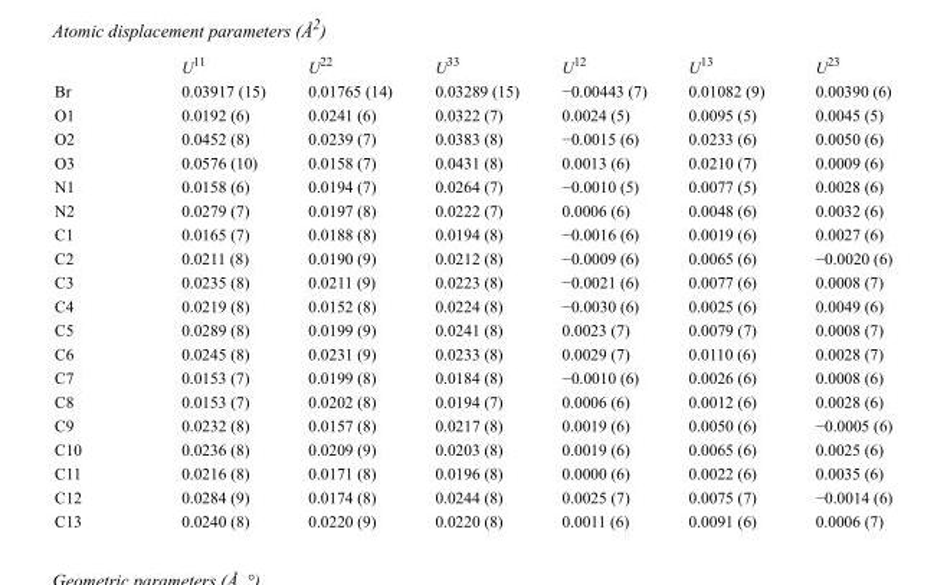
<table><thead><tr><td></td><td>U<sup>11</sup></td><td>U<sup>22</sup></td><td>U<sup>33</sup></td><td>U<sup>12</sup></td><td>U<sup>13</sup></td><td>U<sup>23</sup></td></tr></thead><tbody><tr><td>Br</td><td>0.03917 (15)</td><td>0.01765 (14)</td><td>0.03289 (15)</td><td>−0.00443 (7)</td><td>0.01082 (9)</td><td>0.00390 (6)</td></tr><tr><td>O1</td><td>0.0192 (6)</td><td>0.0241 (6)</td><td>0.0322 (7)</td><td>0.0024 (5)</td><td>0.0095 (5)</td><td>0.0045 (5)</td></tr><tr><td>O2</td><td>0.0452 (8)</td><td>0.0239 (7)</td><td>0.0383 (8)</td><td>−0.0015 (6)</td><td>0.0233 (6)</td><td>0.0050 (6)</td></tr><tr><td>O3</td><td>0.0576 (10)</td><td>0.0158 (7)</td><td>0.0431 (8)</td><td>0.0013 (6)</td><td>0.0210 (7)</td><td>0.0009 (6)</td></tr><tr><td>N1</td><td>0.0158 (6)</td><td>0.0194 (7)</td><td>0.0264 (7)</td><td>−0.0010 (5)</td><td>0.0077 (5)</td><td>0.0028 (6)</td></tr><tr><td>N2</td><td>0.0279 (7)</td><td>0.0197 (8)</td><td>0.0222 (7)</td><td>0.0006 (6)</td><td>0.0048 (6)</td><td>0.0032 (6)</td></tr><tr><td>C1</td><td>0.0165 (7)</td><td>0.0188 (8)</td><td>0.0194 (8)</td><td>−0.0016 (6)</td><td>0.0019 (6)</td><td>0.0027 (6)</td></tr><tr><td>C2</td><td>0.0211 (8)</td><td>0.0190 (9)</td><td>0.0212 (8)</td><td>−0.0009 (6)</td><td>0.0065 (6)</td><td>−0.0020 (6)</td></tr><tr><td>C3</td><td>0.0235 (8)</td><td>0.0211 (9)</td><td>0.0223 (8)</td><td>−0.0021 (6)</td><td>0.0077 (6)</td><td>0.0008 (7)</td></tr><tr><td>C4</td><td>0.0219 (8)</td><td>0.0152 (8)</td><td>0.0224 (8)</td><td>−0.0030 (6)</td><td>0.0025 (6)</td><td>0.0049 (6)</td></tr><tr><td>C5</td><td>0.0289 (8)</td><td>0.0199 (9)</td><td>0.0241 (8)</td><td>0.0023 (7)</td><td>0.0079 (7)</td><td>0.0008 (7)</td></tr><tr><td>C6</td><td>0.0245 (8)</td><td>0.0231 (9)</td><td>0.0233 (8)</td><td>0.0029 (7)</td><td>0.0110 (6)</td><td>0.0028 (7)</td></tr><tr><td>C7</td><td>0.0153 (7)</td><td>0.0199 (8)</td><td>0.0184 (8)</td><td>−0.0010 (6)</td><td>0.0026 (6)</td><td>0.0008 (6)</td></tr><tr><td>C8</td><td>0.0153 (7)</td><td>0.0202 (8)</td><td>0.0194 (7)</td><td>0.0006 (6)</td><td>0.0012 (6)</td><td>0.0028 (6)</td></tr><tr><td>C9</td><td>0.0232 (8)</td><td>0.0157 (8)</td><td>0.0217 (8)</td><td>0.0019 (6)</td><td>0.0050 (6)</td><td>−0.0005 (6)</td></tr><tr><td>C10</td><td>0.0236 (8)</td><td>0.0209 (9)</td><td>0.0203 (8)</td><td>0.0019 (6)</td><td>0.0065 (6)</td><td>0.0025 (6)</td></tr><tr><td>C11</td><td>0.0216 (8)</td><td>0.0171 (8)</td><td>0.0196 (8)</td><td>0.0000 (6)</td><td>0.0022 (6)</td><td>0.0035 (6)</td></tr><tr><td>C12</td><td>0.0284 (9)</td><td>0.0174 (8)</td><td>0.0244 (8)</td><td>0.0025 (7)</td><td>0.0075 (7)</td><td>−0.0014 (6)</td></tr><tr><td>C13</td><td>0.0240 (8)</td><td>0.0220 (9)</td><td>0.0220 (8)</td><td>0.0011 (6)</td><td>0.0091 (6)</td><td>0.0006 (7)</td></tr></tbody></table>